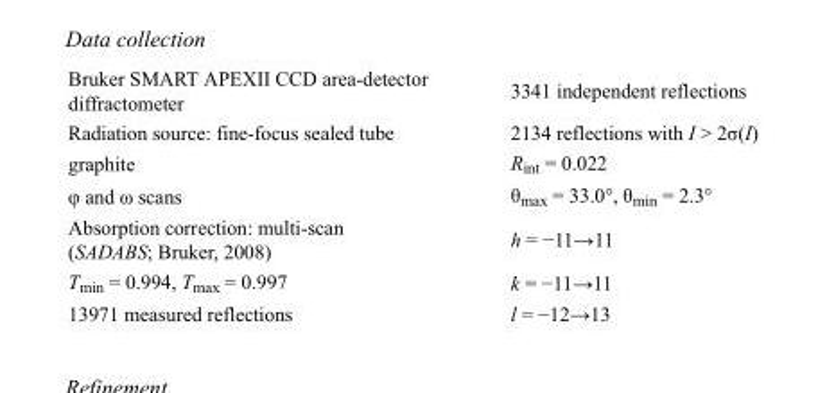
<table><tbody><tr><td>Bruker SMART APEXII CCD area-detector diffractometer</td><td>3341 independent reflections</td></tr><tr><td>Radiation source: fine-focus sealed tube</td><td>2134 reflections with I &gt; 2σ(I)</td></tr><tr><td>graphite</td><td>R<sub>int</sub> = 0.022</td></tr><tr><td>φ and ω scans</td><td>θ<sub>max</sub> = 33.0°, θ<sub>min</sub> = 2.3°</td></tr><tr><td>Absorption correction: multi-scan (SADABS; Bruker, 2008)</td><td>h = −11→11</td></tr><tr><td>T<sub>min</sub> = 0.994, T<sub>max</sub> = 0.997</td><td>k = −11→11</td></tr><tr><td>13971 measured reflections</td><td>l = −12→13</td></tr></tbody></table>